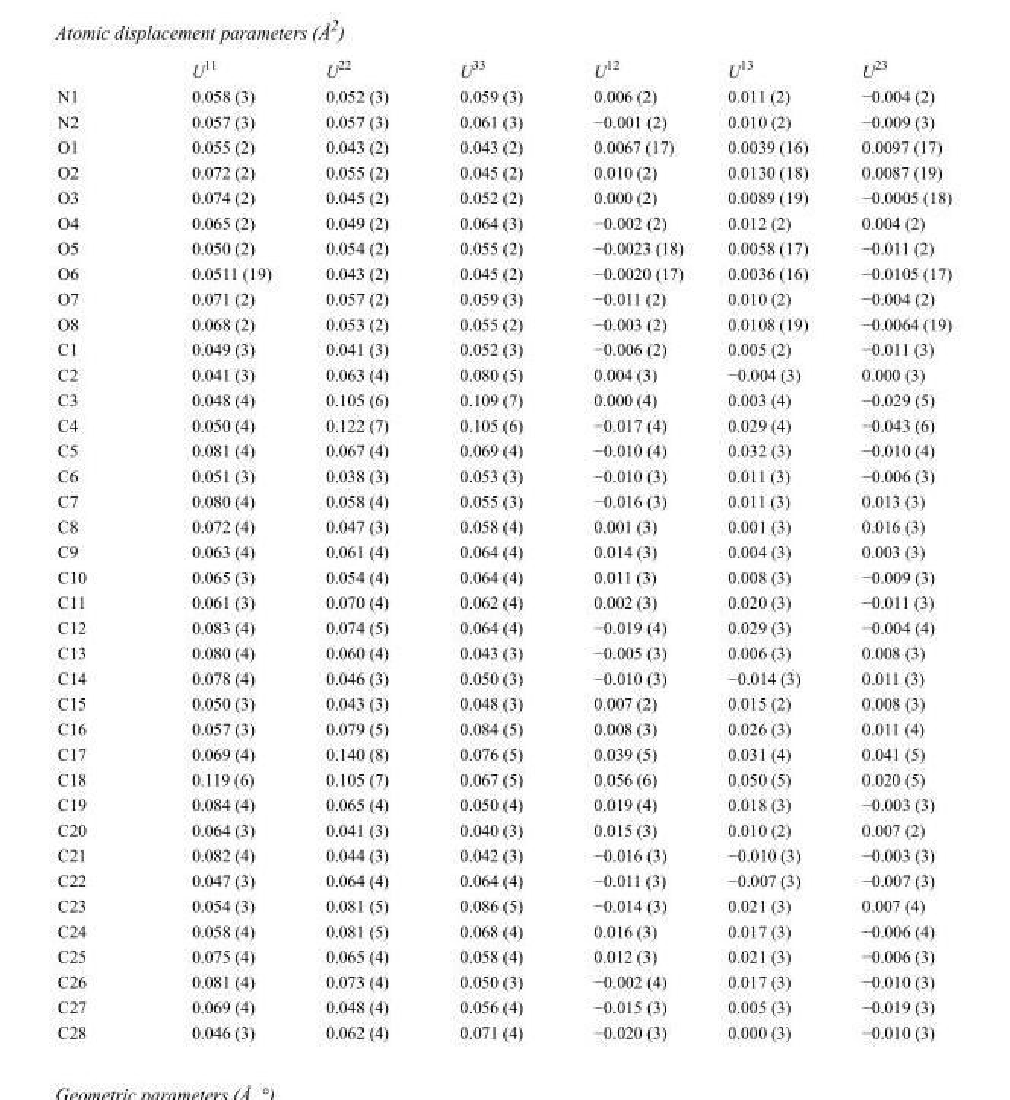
<table><thead><tr><td></td><td>U<sup>11</sup></td><td>U<sup>22</sup></td><td>U<sup>33</sup></td><td>U<sup>12</sup></td><td>U<sup>13</sup></td><td>U<sup>23</sup></td></tr></thead><tbody><tr><td>N1</td><td>0.058 (3)</td><td>0.052 (3)</td><td>0.059 (3)</td><td>0.006 (2)</td><td>0.011 (2)</td><td>−0.004 (2)</td></tr><tr><td>N2</td><td>0.057 (3)</td><td>0.057 (3)</td><td>0.061 (3)</td><td>−0.001 (2)</td><td>0.010 (2)</td><td>−0.009 (3)</td></tr><tr><td>O1</td><td>0.055 (2)</td><td>0.043 (2)</td><td>0.043 (2)</td><td>0.0067 (17)</td><td>0.0039 (16)</td><td>0.0097 (17)</td></tr><tr><td>O2</td><td>0.072 (2)</td><td>0.055 (2)</td><td>0.045 (2)</td><td>0.010 (2)</td><td>0.0130 (18)</td><td>0.0087 (19)</td></tr><tr><td>O3</td><td>0.074 (2)</td><td>0.045 (2)</td><td>0.052 (2)</td><td>0.000 (2)</td><td>0.0089 (19)</td><td>−0.0005 (18)</td></tr><tr><td>O4</td><td>0.065 (2)</td><td>0.049 (2)</td><td>0.064 (3)</td><td>−0.002 (2)</td><td>0.012 (2)</td><td>0.004 (2)</td></tr><tr><td>O5</td><td>0.050 (2)</td><td>0.054 (2)</td><td>0.055 (2)</td><td>−0.0023 (18)</td><td>0.0058 (17)</td><td>−0.011 (2)</td></tr><tr><td>O6</td><td>0.0511 (19)</td><td>0.043 (2)</td><td>0.045 (2)</td><td>−0.0020 (17)</td><td>0.0036 (16)</td><td>−0.0105 (17)</td></tr><tr><td>O7</td><td>0.071 (2)</td><td>0.057 (2)</td><td>0.059 (3)</td><td>−0.011 (2)</td><td>0.010 (2)</td><td>−0.004 (2)</td></tr><tr><td>O8</td><td>0.068 (2)</td><td>0.053 (2)</td><td>0.055 (2)</td><td>−0.003 (2)</td><td>0.0108 (19)</td><td>−0.0064 (19)</td></tr><tr><td>C1</td><td>0.049 (3)</td><td>0.041 (3)</td><td>0.052 (3)</td><td>−0.006 (2)</td><td>0.005 (2)</td><td>−0.011 (3)</td></tr><tr><td>C2</td><td>0.041 (3)</td><td>0.063 (4)</td><td>0.080 (5)</td><td>0.004 (3)</td><td>−0.004 (3)</td><td>0.000 (3)</td></tr><tr><td>C3</td><td>0.048 (4)</td><td>0.105 (6)</td><td>0.109 (7)</td><td>0.000 (4)</td><td>0.003 (4)</td><td>−0.029 (5)</td></tr><tr><td>C4</td><td>0.050 (4)</td><td>0.122 (7)</td><td>0.105 (6)</td><td>−0.017 (4)</td><td>0.029 (4)</td><td>−0.043 (6)</td></tr><tr><td>C5</td><td>0.081 (4)</td><td>0.067 (4)</td><td>0.069 (4)</td><td>−0.010 (4)</td><td>0.032 (3)</td><td>−0.010 (4)</td></tr><tr><td>C6</td><td>0.051 (3)</td><td>0.038 (3)</td><td>0.053 (3)</td><td>−0.010 (3)</td><td>0.011 (3)</td><td>−0.006 (3)</td></tr><tr><td>C7</td><td>0.080 (4)</td><td>0.058 (4)</td><td>0.055 (3)</td><td>−0.016 (3)</td><td>0.011 (3)</td><td>0.013 (3)</td></tr><tr><td>C8</td><td>0.072 (4)</td><td>0.047 (3)</td><td>0.058 (4)</td><td>0.001 (3)</td><td>0.001 (3)</td><td>0.016 (3)</td></tr><tr><td>C9</td><td>0.063 (4)</td><td>0.061 (4)</td><td>0.064 (4)</td><td>0.014 (3)</td><td>0.004 (3)</td><td>0.003 (3)</td></tr><tr><td>C10</td><td>0.065 (3)</td><td>0.054 (4)</td><td>0.064 (4)</td><td>0.011 (3)</td><td>0.008 (3)</td><td>−0.009 (3)</td></tr><tr><td>C11</td><td>0.061 (3)</td><td>0.070 (4)</td><td>0.062 (4)</td><td>0.002 (3)</td><td>0.020 (3)</td><td>−0.011 (3)</td></tr><tr><td>C12</td><td>0.083 (4)</td><td>0.074 (5)</td><td>0.064 (4)</td><td>−0.019 (4)</td><td>0.029 (3)</td><td>−0.004 (4)</td></tr><tr><td>C13</td><td>0.080 (4)</td><td>0.060 (4)</td><td>0.043 (3)</td><td>−0.005 (3)</td><td>0.006 (3)</td><td>0.008 (3)</td></tr><tr><td>C14</td><td>0.078 (4)</td><td>0.046 (3)</td><td>0.050 (3)</td><td>−0.010 (3)</td><td>−0.014 (3)</td><td>0.011 (3)</td></tr><tr><td>C15</td><td>0.050 (3)</td><td>0.043 (3)</td><td>0.048 (3)</td><td>0.007 (2)</td><td>0.015 (2)</td><td>0.008 (3)</td></tr><tr><td>C16</td><td>0.057 (3)</td><td>0.079 (5)</td><td>0.084 (5)</td><td>0.008 (3)</td><td>0.026 (3)</td><td>0.011 (4)</td></tr><tr><td>C17</td><td>0.069 (4)</td><td>0.140 (8)</td><td>0.076 (5)</td><td>0.039 (5)</td><td>0.031 (4)</td><td>0.041 (5)</td></tr><tr><td>C18</td><td>0.119 (6)</td><td>0.105 (7)</td><td>0.067 (5)</td><td>0.056 (6)</td><td>0.050 (5)</td><td>0.020 (5)</td></tr><tr><td>C19</td><td>0.084 (4)</td><td>0.065 (4)</td><td>0.050 (4)</td><td>0.019 (4)</td><td>0.018 (3)</td><td>−0.003 (3)</td></tr><tr><td>C20</td><td>0.064 (3)</td><td>0.041 (3)</td><td>0.040 (3)</td><td>0.015 (3)</td><td>0.010 (2)</td><td>0.007 (2)</td></tr><tr><td>C21</td><td>0.082 (4)</td><td>0.044 (3)</td><td>0.042 (3)</td><td>−0.016 (3)</td><td>−0.010 (3)</td><td>−0.003 (3)</td></tr><tr><td>C22</td><td>0.047 (3)</td><td>0.064 (4)</td><td>0.064 (4)</td><td>−0.011 (3)</td><td>−0.007 (3)</td><td>−0.007 (3)</td></tr><tr><td>C23</td><td>0.054 (3)</td><td>0.081 (5)</td><td>0.086 (5)</td><td>−0.014 (3)</td><td>0.021 (3)</td><td>0.007 (4)</td></tr><tr><td>C24</td><td>0.058 (4)</td><td>0.081 (5)</td><td>0.068 (4)</td><td>0.016 (3)</td><td>0.017 (3)</td><td>−0.006 (4)</td></tr><tr><td>C25</td><td>0.075 (4)</td><td>0.065 (4)</td><td>0.058 (4)</td><td>0.012 (3)</td><td>0.021 (3)</td><td>−0.006 (3)</td></tr><tr><td>C26</td><td>0.081 (4)</td><td>0.073 (4)</td><td>0.050 (3)</td><td>−0.002 (4)</td><td>0.017 (3)</td><td>−0.010 (3)</td></tr><tr><td>C27</td><td>0.069 (4)</td><td>0.048 (4)</td><td>0.056 (4)</td><td>−0.015 (3)</td><td>0.005 (3)</td><td>−0.019 (3)</td></tr><tr><td>C28</td><td>0.046 (3)</td><td>0.062 (4)</td><td>0.071 (4)</td><td>−0.020 (3)</td><td>0.000 (3)</td><td>−0.010 (3)</td></tr></tbody></table>